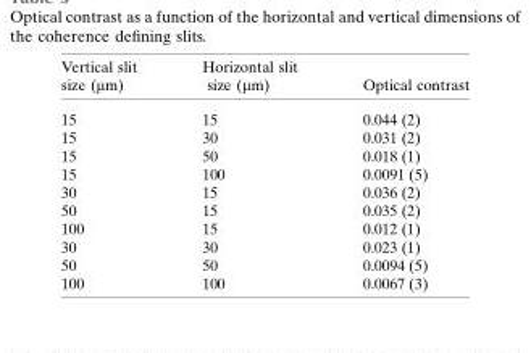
<table><thead><tr><td>Vertical slit size (µm)</td><td>Horizontal slit size (µm)</td><td>Optical contrast</td></tr></thead><tbody><tr><td>15</td><td>15</td><td>0.044 (2)</td></tr><tr><td>15</td><td>30</td><td>0.031 (2)</td></tr><tr><td>15</td><td>50</td><td>0.018 (1)</td></tr><tr><td>15</td><td>100</td><td>0.0091 (5)</td></tr><tr><td>30</td><td>15</td><td>0.036 (2)</td></tr><tr><td>50</td><td>15</td><td>0.035 (2)</td></tr><tr><td>100</td><td>15</td><td>0.012 (1)</td></tr><tr><td>30</td><td>30</td><td>0.023 (1)</td></tr><tr><td>50</td><td>50</td><td>0.0094 (5)</td></tr><tr><td>100</td><td>100</td><td>0.0067 (3)</td></tr></tbody></table>